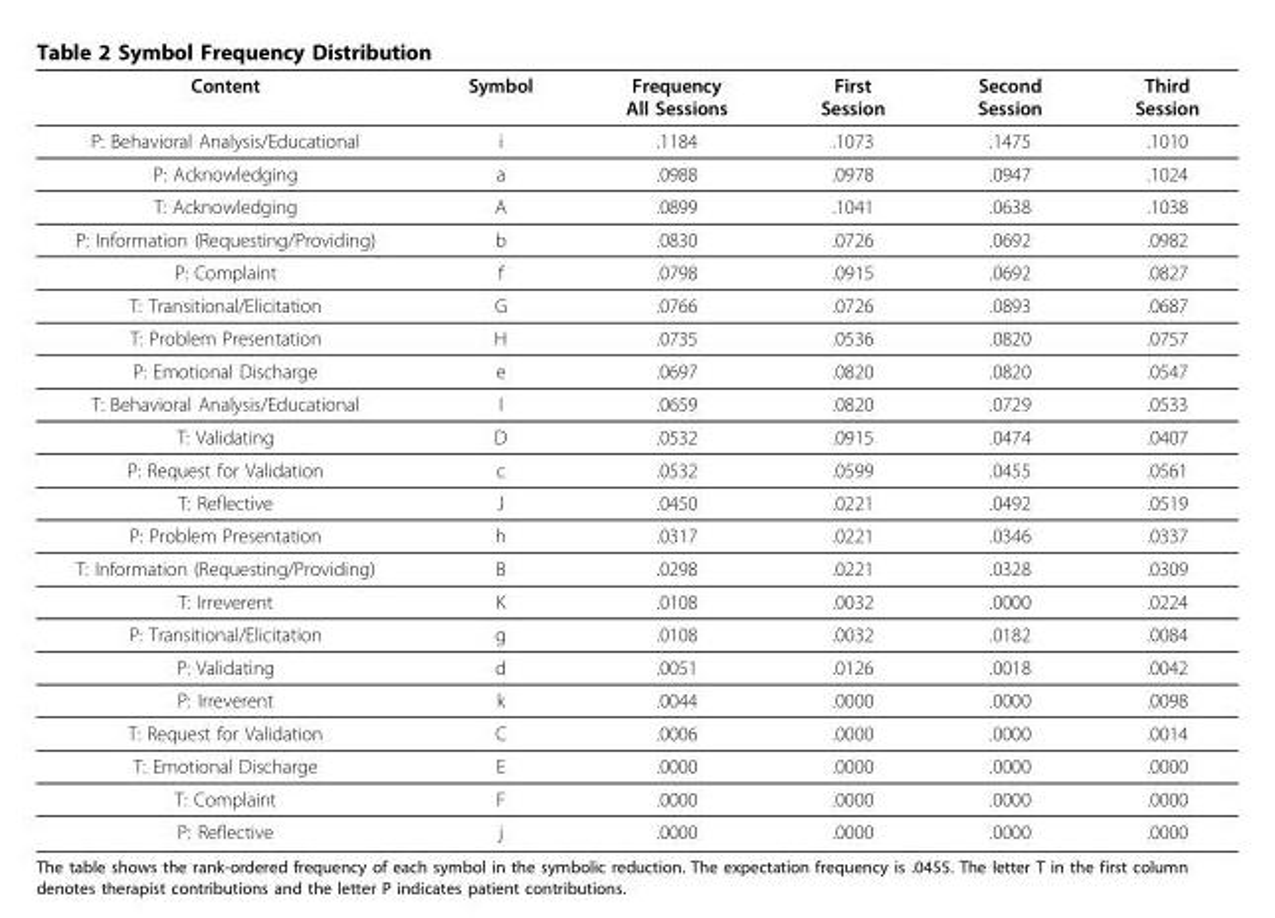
<table><thead><tr><td>Content</td><td>Symbol</td><td>Frequency All Sessions</td><td>First Session</td><td>Second Session</td><td>Third Session</td></tr></thead><tbody><tr><td>P: Behavioral Analysis/Educational</td><td>i</td><td>.1184</td><td>.1073</td><td>.1475</td><td>.1010</td></tr><tr><td>P: Acknowledging</td><td>a</td><td>.0988</td><td>.0978</td><td>.0947</td><td>.1024</td></tr><tr><td>T: Acknowledging</td><td>A</td><td>.0899</td><td>.1041</td><td>.0638</td><td>.1038</td></tr><tr><td>P: Information (Requesting/Providing)</td><td>b</td><td>.0830</td><td>.0726</td><td>.0692</td><td>.0982</td></tr><tr><td>P: Complaint</td><td>f</td><td>.0798</td><td>.0915</td><td>.0692</td><td>.0827</td></tr><tr><td>T: Transitional/Elicitation</td><td>G</td><td>.0766</td><td>.0726</td><td>.0893</td><td>.0687</td></tr><tr><td>T: Problem Presentation</td><td>H</td><td>.0735</td><td>.0536</td><td>.0820</td><td>.0757</td></tr><tr><td>P: Emotional Discharge</td><td>e</td><td>.0697</td><td>.0820</td><td>.0820</td><td>.0547</td></tr><tr><td>T: Behavioral Analysis/Educational</td><td>I</td><td>.0659</td><td>.0820</td><td>.0729</td><td>.0533</td></tr><tr><td>T: Validating</td><td>D</td><td>.0532</td><td>.0915</td><td>.0474</td><td>.0407</td></tr><tr><td>P: Request for Validation</td><td>c</td><td>.0532</td><td>.0599</td><td>.0455</td><td>.0561</td></tr><tr><td>T: Reflective</td><td>J</td><td>.0450</td><td>.0221</td><td>.0492</td><td>.0519</td></tr><tr><td>P: Problem Presentation</td><td>h</td><td>.0317</td><td>.0221</td><td>.0346</td><td>.0337</td></tr><tr><td>T: Information (Requesting/Providing)</td><td>B</td><td>.0298</td><td>.0221</td><td>.0328</td><td>.0309</td></tr><tr><td>T: Irreverent</td><td>K</td><td>.0108</td><td>.0032</td><td>.0000</td><td>.0224</td></tr><tr><td>P: Transitional/Elicitation</td><td>g</td><td>.0108</td><td>.0032</td><td>.0182</td><td>.0084</td></tr><tr><td>P: Validating</td><td>d</td><td>.0051</td><td>.0126</td><td>.0018</td><td>.0042</td></tr><tr><td>P: Irreverent</td><td>k</td><td>.0044</td><td>.0000</td><td>.0000</td><td>.0098</td></tr><tr><td>T: Request for Validation</td><td>C</td><td>.0006</td><td>.0000</td><td>.0000</td><td>.0014</td></tr><tr><td>T: Emotional Discharge</td><td>E</td><td>.0000</td><td>.0000</td><td>.0000</td><td>.0000</td></tr><tr><td>T: Complaint</td><td>F</td><td>.0000</td><td>.0000</td><td>.0000</td><td>.0000</td></tr><tr><td>P: Reflective</td><td>j</td><td>.0000</td><td>.0000</td><td>.0000</td><td>.0000</td></tr></tbody></table>